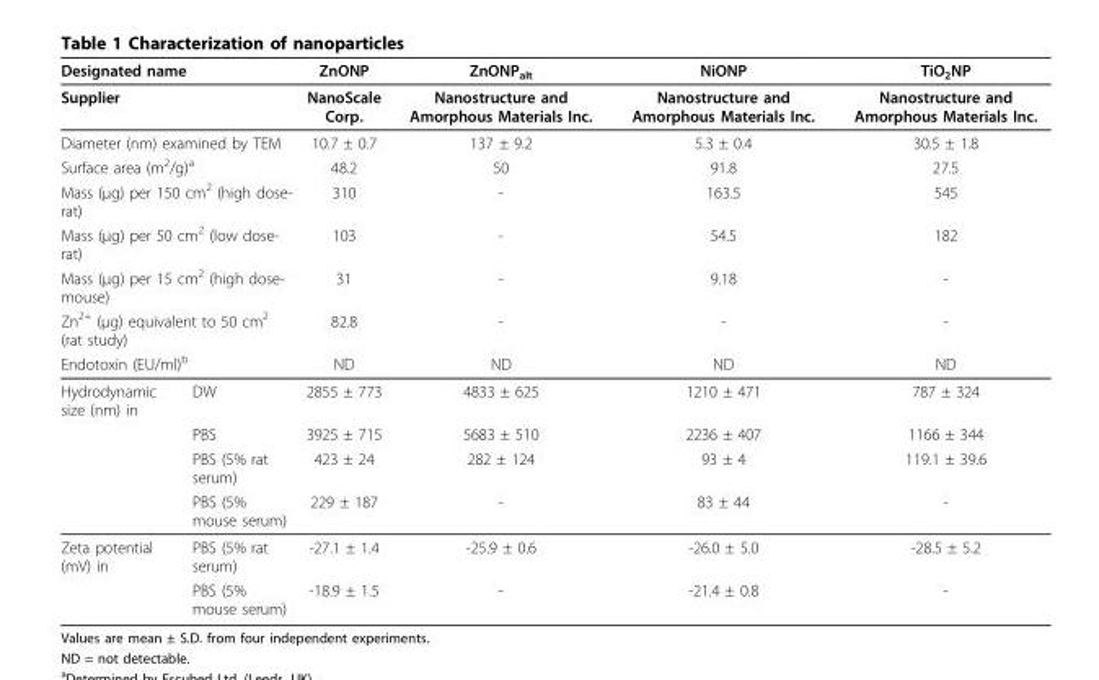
<table><thead><tr><td colspan="2">Designated name</td><td>ZnONP</td><td>ZnONP<sub>alt</sub></td><td>NiONP</td><td>TiO<sub>2</sub>NP</td></tr></thead><tbody><tr><td colspan="2">Supplier</td><td>NanoScale Corp.</td><td>Nanostructure and Amorphous Materials Inc.</td><td>Nanostructure and Amorphous Materials Inc.</td><td>Nanostructure and Amorphous Materials Inc.</td></tr><tr><td colspan="2">Diameter (nm) examined by TEM</td><td>10.7 ± 0.7</td><td>137 ± 9.2</td><td>5.3 ± 0.4</td><td>30.5 ± 1.8</td></tr><tr><td colspan="2">Surface area (m<sup>2</sup>/g)<sup>a</sup></td><td>48.2</td><td>50</td><td>91.8</td><td>27.5</td></tr><tr><td colspan="2">Mass (μg) per 150 cm<sup>2</sup> (high dose- rat)</td><td>310</td><td>-</td><td>163.5</td><td>545</td></tr><tr><td colspan="2">Mass (μg) per 50 cm<sup>2</sup> (low dose- rat)</td><td>103</td><td>-</td><td>54.5</td><td>182</td></tr><tr><td colspan="2">Mass (μg) per 15 cm<sup>2</sup> (high dose- mouse)</td><td>31</td><td>-</td><td>9.18</td><td>-</td></tr><tr><td colspan="2">Zn<sup>2+</sup> (μg) equivalent to 50 cm<sup>2</sup> (rat study)</td><td>82.8</td><td>-</td><td>-</td><td>-</td></tr><tr><td colspan="2">Endotoxin (EU/ml)<sup>b</sup></td><td>ND</td><td>ND</td><td>ND</td><td>ND</td></tr><tr><td rowspan="4">Hydrodynamic size (nm) in</td><td>DW</td><td>2855 ± 773</td><td>4833 ± 625</td><td>1210 ± 471</td><td>787 ± 324</td></tr><tr><td>PBS</td><td>3925 ± 715</td><td>5683 ± 510</td><td>2236 ± 407</td><td>1166 ± 344</td></tr><tr><td>PBS (5% rat serum)</td><td>423 ± 24</td><td>282 ± 124</td><td>93 ± 4</td><td>119.1 ± 39.6</td></tr><tr><td>PBS (5% mouse serum)</td><td>229 ± 187</td><td>-</td><td>83 ± 44</td><td>-</td></tr><tr><td rowspan="2">Zeta potential (mV) in</td><td>PBS (5% rat serum)</td><td>-27.1 ± 1.4</td><td>-25.9 ± 0.6</td><td>-26.0 ± 5.0</td><td>-28.5 ± 5.2</td></tr><tr><td>PBS (5% mouse serum)</td><td>-18.9 ± 1.5</td><td>-</td><td>-21.4 ± 0.8</td><td>-</td></tr></tbody></table>